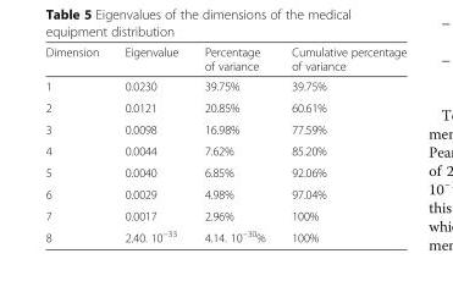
<table><thead><tr><td>Dimension</td><td>Eigenvalue</td><td>Percentage of variance</td><td>Cumulative percentage of variance</td></tr></thead><tbody><tr><td>1</td><td>0.0230</td><td>39.75%</td><td>39.75%</td></tr><tr><td>2</td><td>0.0121</td><td>20.85%</td><td>60.61%</td></tr><tr><td>3</td><td>0.0098</td><td>16.98%</td><td>77.59%</td></tr><tr><td>4</td><td>0.0044</td><td>7.62%</td><td>85.20%</td></tr><tr><td>5</td><td>0.0040</td><td>6.85%</td><td>92.06%</td></tr><tr><td>6</td><td>0.0029</td><td>4.98%</td><td>97.04%</td></tr><tr><td>7</td><td>0.0017</td><td>2.96%</td><td>100%</td></tr><tr><td>8</td><td>2.40. 10<sup>−33</sup></td><td>4.14. 10<sup>−30</sup>%</td><td>100%</td></tr></tbody></table>